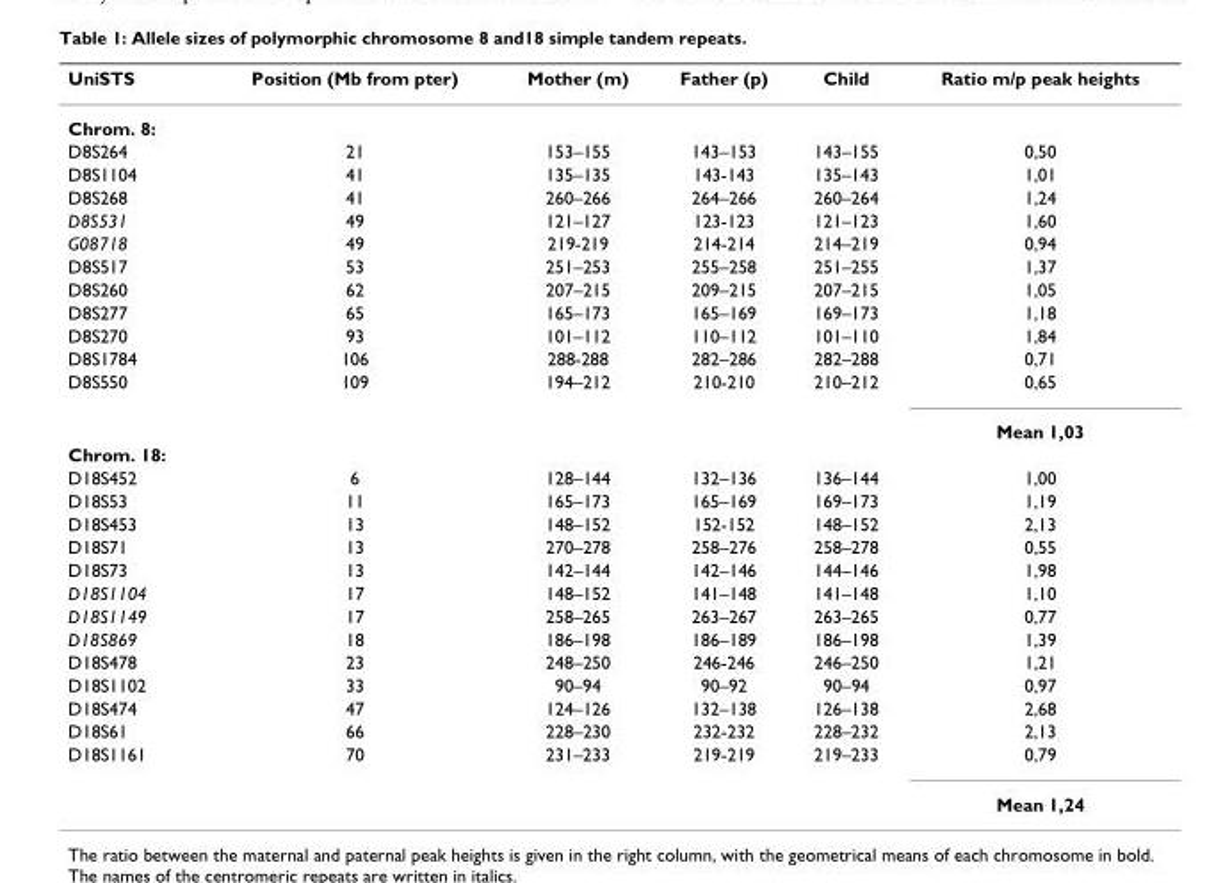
<table><thead><tr><td>UniSTS</td><td>Position (Mb from pter)</td><td>Mother (m)</td><td>Father (p)</td><td>Child</td><td>Ratio m/p peak heights</td></tr></thead><tbody><tr><td colspan="6">Chrom. 8:</td></tr><tr><td>D8S264</td><td>21</td><td>153–155</td><td>143–153</td><td>143–155</td><td>0,50</td></tr><tr><td>D8S1104</td><td>41</td><td>135–135</td><td>143-143</td><td>135–143</td><td>1,01</td></tr><tr><td>D8S268</td><td>41</td><td>260–266</td><td>264–266</td><td>260–264</td><td>1,24</td></tr><tr><td>D8S531</td><td>49</td><td>121–127</td><td>123-123</td><td>121–123</td><td>1,60</td></tr><tr><td>G08718</td><td>49</td><td>219-219</td><td>214-214</td><td>214–219</td><td>0,94</td></tr><tr><td>D8S517</td><td>53</td><td>251–253</td><td>255–258</td><td>251–255</td><td>1,37</td></tr><tr><td>D8S260</td><td>62</td><td>207–215</td><td>209–215</td><td>207–215</td><td>1,05</td></tr><tr><td>D8S277</td><td>65</td><td>165–173</td><td>165–169</td><td>169–173</td><td>1,18</td></tr><tr><td>D8S270</td><td>93</td><td>101–112</td><td>110–112</td><td>101–110</td><td>1,84</td></tr><tr><td>D8S1784</td><td>106</td><td>288-288</td><td>282–286</td><td>282–288</td><td>0,71</td></tr><tr><td rowspan="2">D8S550</td><td>109</td><td>194–212</td><td>210-210</td><td>210–212</td><td>0,65</td></tr><tr><td></td><td></td><td></td><td></td><td>Mean 1,03</td></tr><tr><td colspan="6">Chrom. 18:</td></tr><tr><td>D18S452</td><td>6</td><td>128–144</td><td>132–136</td><td>136–144</td><td>1,00</td></tr><tr><td>D18S53</td><td>11</td><td>165–173</td><td>165–169</td><td>169–173</td><td>1,19</td></tr><tr><td>D18S453</td><td>13</td><td>148–152</td><td>152-152</td><td>148–152</td><td>2,13</td></tr><tr><td>D18S71</td><td>13</td><td>270–278</td><td>258–276</td><td>258–278</td><td>0,55</td></tr><tr><td>D18S73</td><td>13</td><td>142–144</td><td>142–146</td><td>144–146</td><td>1,98</td></tr><tr><td>D18S1104</td><td>17</td><td>148–152</td><td>141–148</td><td>141–148</td><td>1,10</td></tr><tr><td>D18S1149</td><td>17</td><td>258–265</td><td>263–267</td><td>263–265</td><td>0,77</td></tr><tr><td>D18S869</td><td>18</td><td>186–198</td><td>186–189</td><td>186–198</td><td>1,39</td></tr><tr><td>D18S478</td><td>23</td><td>248–250</td><td>246-246</td><td>246–250</td><td>1,21</td></tr><tr><td>D18S1102</td><td>33</td><td>90–94</td><td>90–92</td><td>90–94</td><td>0,97</td></tr><tr><td>D18S474</td><td>47</td><td>124–126</td><td>132–138</td><td>126–138</td><td>2,68</td></tr><tr><td>D18S61</td><td>66</td><td>228–230</td><td>232-232</td><td>228–232</td><td>2,13</td></tr><tr><td rowspan="2">D18S1161</td><td>70</td><td>231–233</td><td>219-219</td><td>219–233</td><td>0,79</td></tr><tr><td></td><td></td><td></td><td></td><td>Mean 1,24</td></tr></tbody></table>